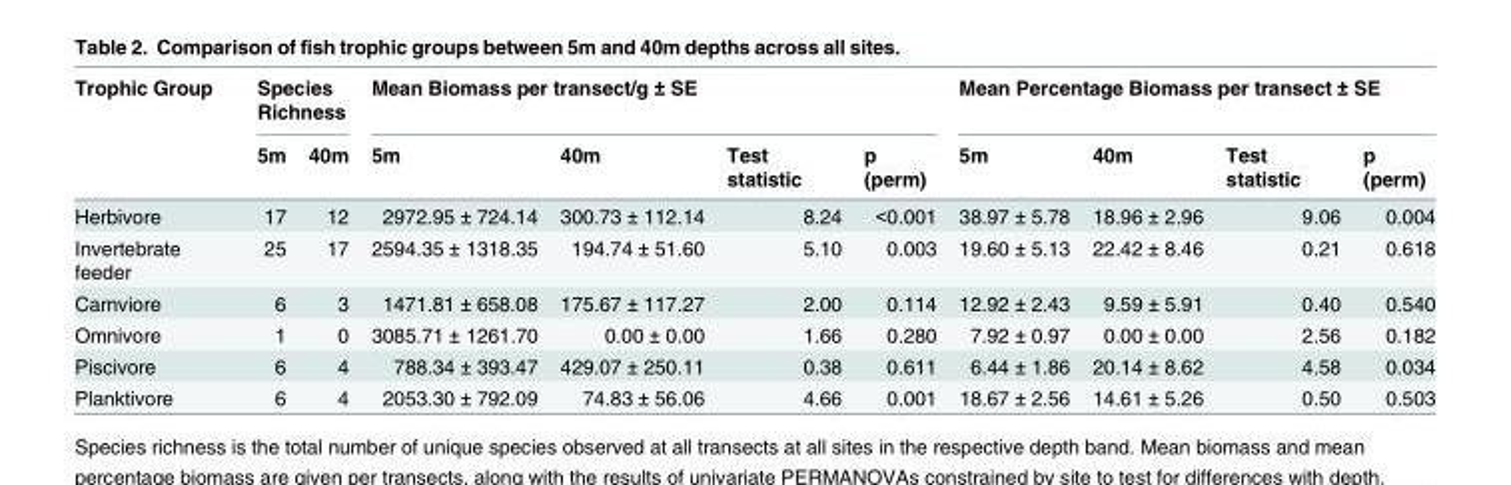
<table><thead><tr><td rowspan="2">Trophic Group</td><td colspan="2">Species Richness</td><td colspan="4">Mean Biomass per transect/g ± SE</td><td colspan="4">Mean Percentage Biomass per transect ± SE</td></tr><tr><td>5m</td><td>40m</td><td>5m</td><td>40m</td><td>Test statistic</td><td>p (perm)</td><td>5m</td><td>40m</td><td>Test statistic</td><td>p (perm)</td></tr></thead><tbody><tr><td>Herbivore</td><td>17</td><td>12</td><td>2972.95 ± 724.14</td><td>300.73 ± 112.14</td><td>8.24</td><td>&lt;0.001</td><td>38.97 ± 5.78</td><td>18.96 ± 2.96</td><td>9.06</td><td>0.004</td></tr><tr><td>Invertebrate feeder</td><td>25</td><td>17</td><td>2594.35 ± 1318.35</td><td>194.74 ± 51.60</td><td>5.10</td><td>0.003</td><td>19.60 ± 5.13</td><td>22.42 ± 8.46</td><td>0.21</td><td>0.618</td></tr><tr><td>Carnviore</td><td>6</td><td>3</td><td>1471.81 ± 658.08</td><td>175.67 ± 117.27</td><td>2.00</td><td>0.114</td><td>12.92 ± 2.43</td><td>9.59 ± 5.91</td><td>0.40</td><td>0.540</td></tr><tr><td>Omnivore</td><td>1</td><td>0</td><td>3085.71 ± 1261.70</td><td>0.00 ± 0.00</td><td>1.66</td><td>0.280</td><td>7.92 ± 0.97</td><td>0.00 ± 0.00</td><td>2.56</td><td>0.182</td></tr><tr><td>Piscivore</td><td>6</td><td>4</td><td>788.34 ± 393.47</td><td>429.07 ± 250.11</td><td>0.38</td><td>0.611</td><td>6.44 ± 1.86</td><td>20.14 ± 8.62</td><td>4.58</td><td>0.034</td></tr><tr><td>Planktivore</td><td>6</td><td>4</td><td>2053.30 ± 792.09</td><td>74.83 ± 56.06</td><td>4.66</td><td>0.001</td><td>18.67 ± 2.56</td><td>14.61 ± 5.26</td><td>0.50</td><td>0.503</td></tr></tbody></table>